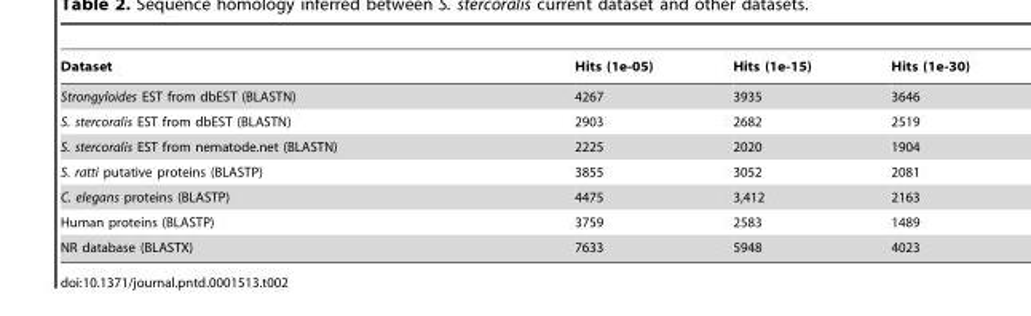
<table><thead><tr><td>Dataset</td><td>Hits (1e-05)</td><td>Hits (1e-15)</td><td>Hits (1e-30)</td></tr></thead><tbody><tr><td>Strongyloides EST from dbEST (BLASTN)</td><td>4267</td><td>3935</td><td>3646</td></tr><tr><td>S. stercoralis EST from dbEST (BLASTN)</td><td>2903</td><td>2682</td><td>2519</td></tr><tr><td>S. stercoralis EST from nematode.net (BLASTN)</td><td>2225</td><td>2020</td><td>1904</td></tr><tr><td>S. ratti putative proteins (BLASTP)</td><td>3855</td><td>3052</td><td>2081</td></tr><tr><td>C. elegans proteins (BLASTP)</td><td>4475</td><td>3,412</td><td>2163</td></tr><tr><td>Human proteins (BLASTP)</td><td>3759</td><td>2583</td><td>1489</td></tr><tr><td>NR database (BLASTX)</td><td>7633</td><td>5948</td><td>4023</td></tr></tbody></table>